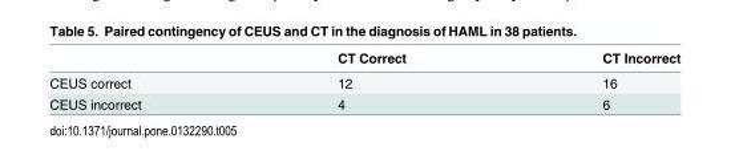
<table><thead><tr><td></td><td>CT Correct</td><td>CT Incorrect</td></tr></thead><tbody><tr><td>CEUS correct</td><td>12</td><td>16</td></tr><tr><td>CEUS incorrect</td><td>4</td><td>6</td></tr></tbody></table>